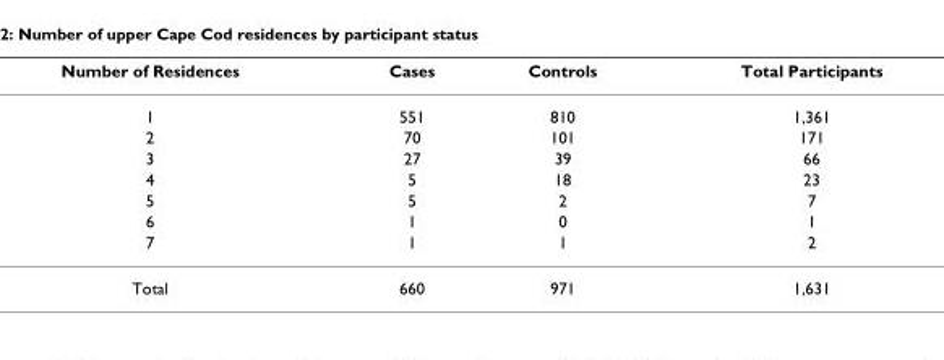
<table><thead><tr><td>Number of Residences</td><td>Cases</td><td>Controls</td><td>Total Participants</td></tr></thead><tbody><tr><td>1</td><td>551</td><td>810</td><td>1,361</td></tr><tr><td>2</td><td>70</td><td>101</td><td>171</td></tr><tr><td>3</td><td>27</td><td>39</td><td>66</td></tr><tr><td>4</td><td>5</td><td>18</td><td>23</td></tr><tr><td>5</td><td>5</td><td>2</td><td>7</td></tr><tr><td>6</td><td>1</td><td>0</td><td>1</td></tr><tr><td>7</td><td>1</td><td>1</td><td>2</td></tr><tr><td>Total</td><td>660</td><td>971</td><td>1,631</td></tr></tbody></table>